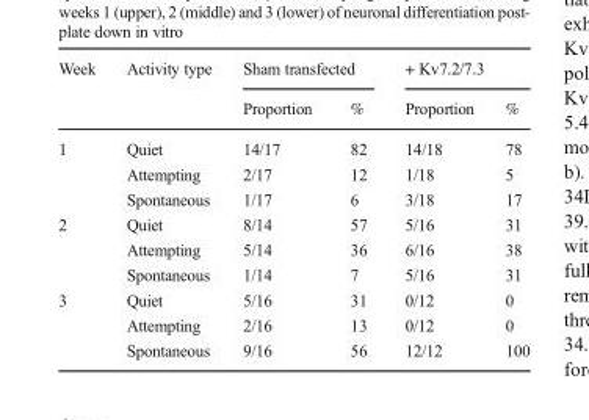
<table><thead><tr><td rowspan="2">Week</td><td rowspan="2">Activity type</td><td colspan="2">Sham transfected</td><td colspan="2">+ Kv7.2/7.3</td></tr><tr><td>Proportion</td><td>%</td><td>Proportion</td><td>%</td></tr></thead><tbody><tr><td rowspan="3">1</td><td>Quiet</td><td>14/17</td><td>82</td><td>14/18</td><td>78</td></tr><tr><td>Attempting</td><td>2/17</td><td>12</td><td>1/18</td><td>5</td></tr><tr><td>Spontaneous</td><td>1/17</td><td>6</td><td>3/18</td><td>17</td></tr><tr><td rowspan="3">2</td><td>Quiet</td><td>8/14</td><td>57</td><td>5/16</td><td>31</td></tr><tr><td>Attempting</td><td>5/14</td><td>36</td><td>6/16</td><td>38</td></tr><tr><td>Spontaneous</td><td>1/14</td><td>7</td><td>5/16</td><td>31</td></tr><tr><td rowspan="3">3</td><td>Quiet</td><td>5/16</td><td>31</td><td>0/12</td><td>0</td></tr><tr><td>Attempting</td><td>2/16</td><td>13</td><td>0/12</td><td>0</td></tr><tr><td>Spontaneous</td><td>9/16</td><td>56</td><td>12/12</td><td>100</td></tr></tbody></table>